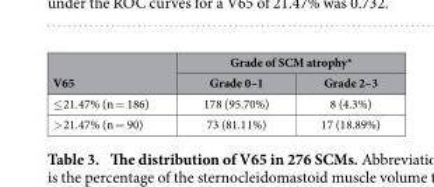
<table><thead><tr><td rowspan="2">V65</td><td colspan="2">Grade of SCM atrophy*</td></tr><tr><td>Grade 0–1</td><td>Grade 2–3</td></tr></thead><tbody><tr><td>≤ 21.47% (n = 186)</td><td>178 (95.70%)</td><td>8 (4.3%)</td></tr><tr><td>&gt; 21.47% (n = 90)</td><td>73 (81.11%)</td><td>17 (18.89%)</td></tr></tbody></table>